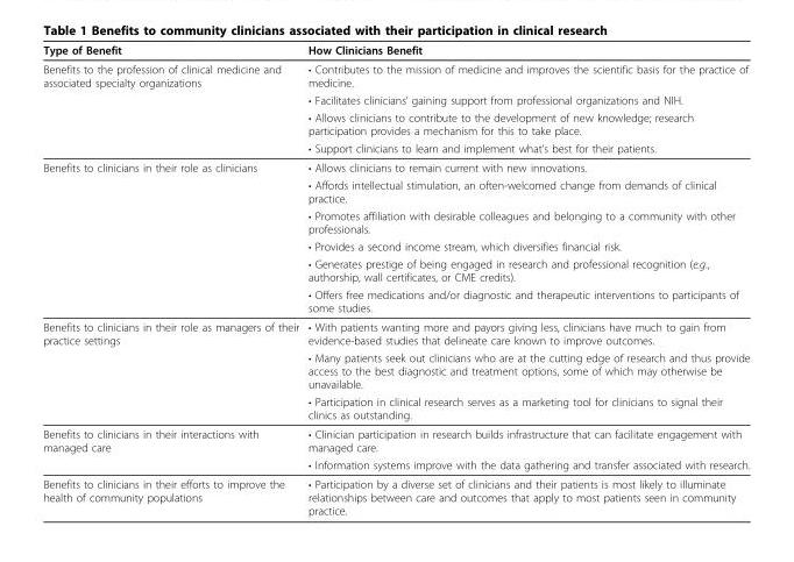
<table><thead><tr><td>Type of Benefit</td><td>How Clinicians Benefit</td></tr></thead><tbody><tr><td rowspan="4">Benefits to the profession of clinical medicine and associated specialty organizations</td><td>• Contributes to the mission of medicine and improves the scientific basis for the practice of medicine.</td></tr><tr><td>• Facilitates clinicians’ gaining support from professional organizations and NIH.</td></tr><tr><td>• Allows clinicians to contribute to the development of new knowledge; research participation provides a mechanism for this to take place.</td></tr><tr><td>• Support clinicians to learn and implement what’s best for their patients.</td></tr><tr><td rowspan="6">Benefits to clinicians in their role as clinicians</td><td>• Allows clinicians to remain current with new innovations.</td></tr><tr><td>• Affords intellectual stimulation, an often-welcomed change from demands of clinical practice.</td></tr><tr><td>• Promotes affiliation with desirable colleagues and belonging to a community with other professionals.</td></tr><tr><td>• Provides a second income stream, which diversifies financial risk.</td></tr><tr><td>• Generates prestige of being engaged in research and professional recognition (e.g., authorship, wall certificates, or CME credits).</td></tr><tr><td>• Offers free medications and/or diagnostic and therapeutic interventions to participants of some studies.</td></tr><tr><td rowspan="3">Benefits to clinicians in their role as managers of their practice settings</td><td>• With patients wanting more and payors giving less, clinicians have much to gain from evidence-based studies that delineate care known to improve outcomes.</td></tr><tr><td>• Many patients seek out clinicians who are at the cutting edge of research and thus provide access to the best diagnostic and treatment options, some of which may otherwise be unavailable.</td></tr><tr><td>• Participation in clinical research serves as a marketing tool for clinicians to signal their clinics as outstanding.</td></tr><tr><td rowspan="2">Benefits to clinicians in their interactions with managed care</td><td>• Clinician participation in research builds infrastructure that can facilitate engagement with managed care.</td></tr><tr><td>• Information systems improve with the data gathering and transfer associated with research.</td></tr><tr><td>Benefits to clinicians in their efforts to improve the health of community populations</td><td>• Participation by a diverse set of clinicians and their patients is most likely to illuminate relationships between care and outcomes that apply to most patients seen in community practice.</td></tr></tbody></table>